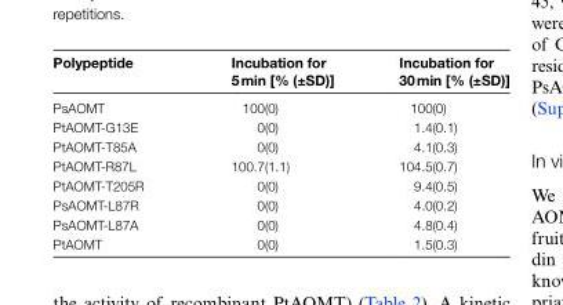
<table><thead><tr><td>Polypeptide</td><td>Incubation for 5 min [% (±SD)]</td><td>Incubation for 30 min [% (±SD)]</td></tr></thead><tbody><tr><td>PsAOMT</td><td>100(0)</td><td>100(0)</td></tr><tr><td>PtAOMT-G13E</td><td>0(0)</td><td>1.4(0.1)</td></tr><tr><td>PtAOMT-T85A</td><td>0(0)</td><td>4.1(0.3)</td></tr><tr><td>PtAOMT-R87L</td><td>100.7(1.1)</td><td>104.5(0.7)</td></tr><tr><td>PtAOMT-T205R</td><td>0(0)</td><td>9.4(0.5)</td></tr><tr><td>PsAOMT-L87R</td><td>0(0)</td><td>4.0(0.2)</td></tr><tr><td>PsAOMT-L87A</td><td>0(0)</td><td>4.8(0.4)</td></tr><tr><td>PtAOMT</td><td>0(0)</td><td>1.5(0.3)</td></tr></tbody></table>